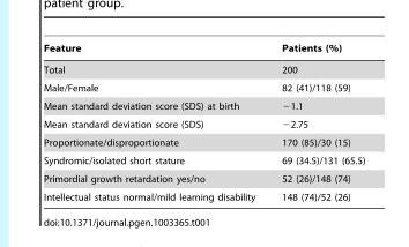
<table><thead><tr><td>Feature</td><td>Patients (%)</td></tr></thead><tbody><tr><td>Total</td><td>200</td></tr><tr><td>Male/Female</td><td>82 (41)/118 (59)</td></tr><tr><td>Mean standard deviation score (SDS) at birth</td><td>−1.1</td></tr><tr><td>Mean standard deviation score (SDS)</td><td>−2.75</td></tr><tr><td>Proportionate/disproportionate</td><td>170 (85)/30 (15)</td></tr><tr><td>Syndromic/isolated short stature</td><td>69 (34.5)/131 (65.5)</td></tr><tr><td>Primordial growth retardation yes/no</td><td>52 (26)/148 (74)</td></tr><tr><td>Intellectual status normal/mild learning disability</td><td>148 (74)/52 (26)</td></tr></tbody></table>